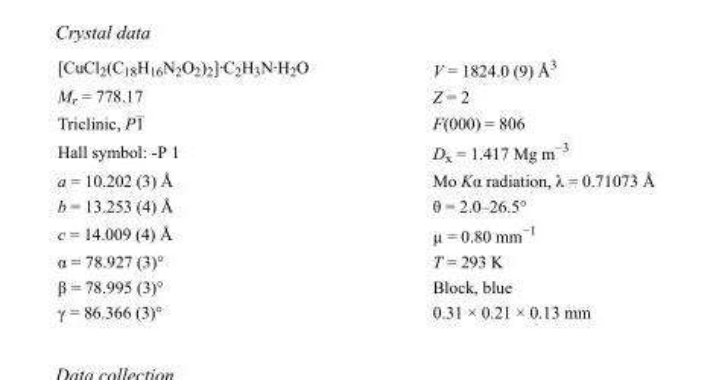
<table><tbody><tr><td>[CuCl<sub>2</sub>(C<sub>18</sub>H<sub>16</sub>N<sub>2</sub>O<sub>2</sub>)<sub>2</sub>]·C<sub>2</sub>H<sub>3</sub>N·H<sub>2</sub>O</td><td>V = 1824.0 (9) Å<sup>3</sup></td></tr><tr><td>M<sub>r</sub> = 778.17</td><td>Z = 2</td></tr><tr><td>Triclinic, P1</td><td>F(000) = 806</td></tr><tr><td>Hall symbol: -P 1</td><td>D<sub>x</sub> = 1.417 Mg m<sup>−3</sup></td></tr><tr><td>a = 10.202 (3) Å</td><td>Mo Kα radiation, λ = 0.71073 Å</td></tr><tr><td>b = 13.253 (4) Å</td><td>θ = 2.0–26.5°</td></tr><tr><td>c = 14.009 (4) Å</td><td>µ = 0.80 mm<sup>−1</sup></td></tr><tr><td>α = 78.927 (3)°</td><td>T = 293 K</td></tr><tr><td>β = 78.995 (3)°</td><td>Block, blue</td></tr><tr><td>γ = 86.366 (3)°</td><td>0.31 × 0.21 × 0.13 mm</td></tr></tbody></table>